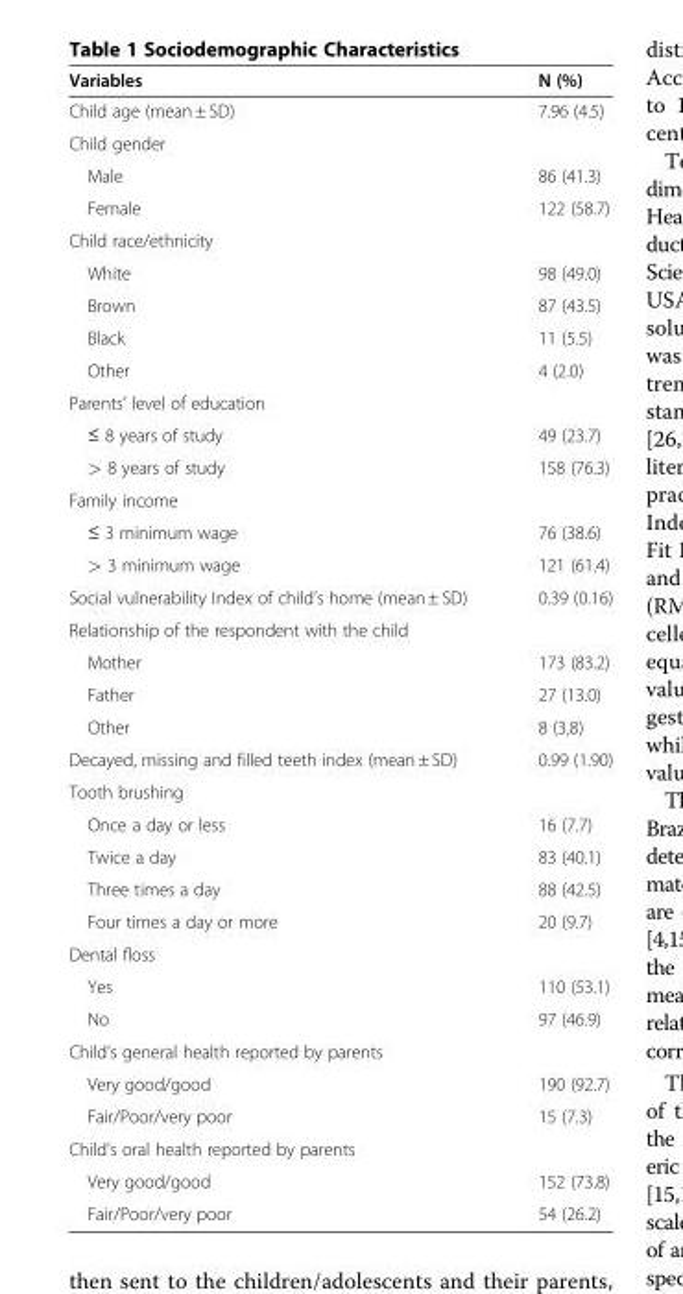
<table><thead><tr><td>Variables</td><td>N (%)</td></tr></thead><tbody><tr><td>Child age (mean ± SD)</td><td>7.96 (4.5)</td></tr><tr><td colspan="2">Child gender</td></tr><tr><td>Male</td><td>86 (41.3)</td></tr><tr><td>Female</td><td>122 (58.7)</td></tr><tr><td colspan="2">Child race/ethnicity</td></tr><tr><td>White</td><td>98 (49.0)</td></tr><tr><td>Brown</td><td>87 (43.5)</td></tr><tr><td>Black</td><td>11 (5.5)</td></tr><tr><td>Other</td><td>4 (2.0)</td></tr><tr><td colspan="2">Parents’ level of education</td></tr><tr><td>≤ 8 years of study</td><td>49 (23.7)</td></tr><tr><td>&gt; 8 years of study</td><td>158 (76.3)</td></tr><tr><td colspan="2">Family income</td></tr><tr><td>≤ 3 minimum wage</td><td>76 (38.6)</td></tr><tr><td>&gt; 3 minimum wage</td><td>121 (61.4)</td></tr><tr><td>Social vulnerability Index of child’s home (mean ± SD)</td><td>0.39 (0.16)</td></tr><tr><td colspan="2">Relationship of the respondent with the child</td></tr><tr><td>Mother</td><td>173 (83.2)</td></tr><tr><td>Father</td><td>27 (13.0)</td></tr><tr><td>Other</td><td>8 (3,8)</td></tr><tr><td>Decayed, missing and filled teeth index (mean ± SD)</td><td>0.99 (1.90)</td></tr><tr><td colspan="2">Tooth brushing</td></tr><tr><td>Once a day or less</td><td>16 (7.7)</td></tr><tr><td>Twice a day</td><td>83 (40.1)</td></tr><tr><td>Three times a day</td><td>88 (42.5)</td></tr><tr><td>Four times a day or more</td><td>20 (9.7)</td></tr><tr><td colspan="2">Dental floss</td></tr><tr><td>Yes</td><td>110 (53.1)</td></tr><tr><td>No</td><td>97 (46.9)</td></tr><tr><td colspan="2">Child’s general health reported by parents</td></tr><tr><td>Very good/good</td><td>190 (92.7)</td></tr><tr><td>Fair/Poor/very poor</td><td>15 (7.3)</td></tr><tr><td colspan="2">Child’s oral health reported by parents</td></tr><tr><td>Very good/good</td><td>152 (73.8)</td></tr><tr><td>Fair/Poor/very poor</td><td>54 (26.2)</td></tr></tbody></table>